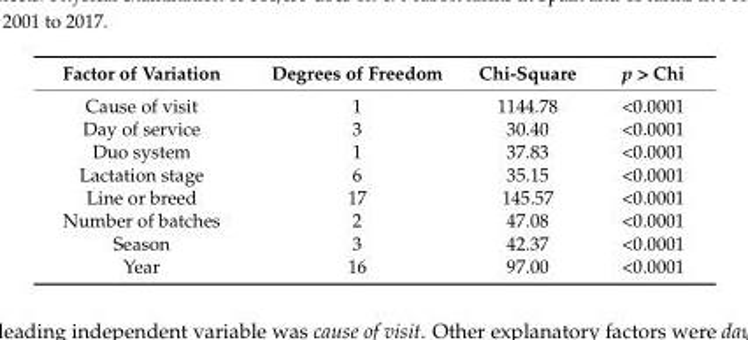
<table><thead><tr><td>Factor of Variation</td><td>Degrees of Freedom</td><td>Chi-Square</td><td>p &gt; Chi</td></tr></thead><tbody><tr><td>Cause of visit</td><td>1</td><td>1144.78</td><td>&lt;0.0001</td></tr><tr><td>Day of service</td><td>3</td><td>30.40</td><td>&lt;0.0001</td></tr><tr><td>Duo system</td><td>1</td><td>37.83</td><td>&lt;0.0001</td></tr><tr><td>Lactation stage</td><td>6</td><td>35.15</td><td>&lt;0.0001</td></tr><tr><td>Line or breed</td><td>17</td><td>145.57</td><td>&lt;0.0001</td></tr><tr><td>Number of batches</td><td>2</td><td>47.08</td><td>&lt;0.0001</td></tr><tr><td>Season</td><td>3</td><td>42.37</td><td>&lt;0.0001</td></tr><tr><td>Year</td><td>16</td><td>97.00</td><td>&lt;0.0001</td></tr></tbody></table>